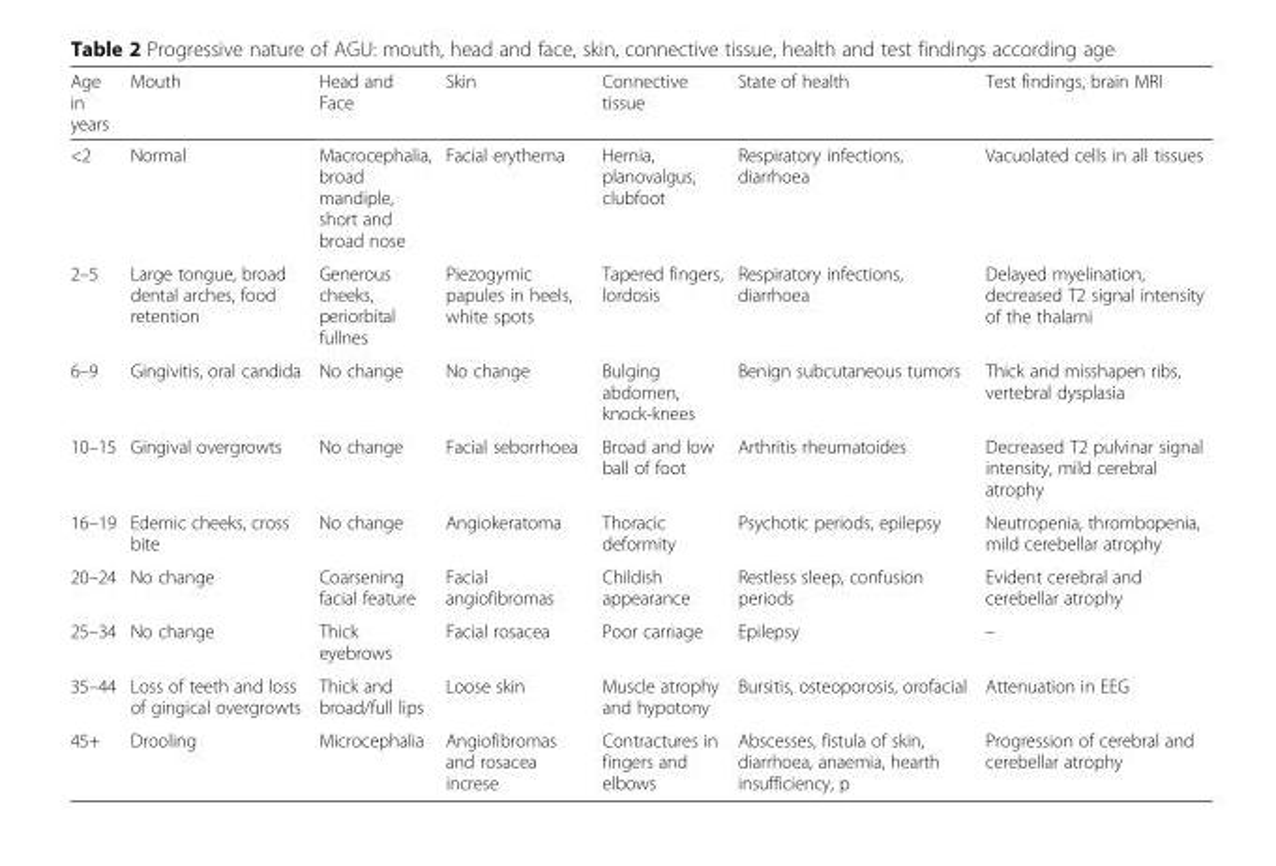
<table><thead><tr><td>Age in years</td><td>Mouth</td><td>Head and Face</td><td>Skin</td><td>Connective tissue</td><td>State of health</td><td>Test findings, brain MRI</td></tr></thead><tbody><tr><td>&lt;2</td><td>Normal</td><td>Macrocephalia, broad mandiple, short and broad nose</td><td>Facial erythema</td><td>Hernia, planovalgus, clubfoot</td><td>Respiratory infections, diarrhoea</td><td>Vacuolated cells in all tissues</td></tr><tr><td>2–5</td><td>Large tongue, broad dental arches, food retention</td><td>Generous cheeks, periorbital fullnes</td><td>Piezogymic papules in heels, white spots</td><td>Tapered fingers, lordosis</td><td>Respiratory infections, diarrhoea</td><td>Delayed myelination, decreased T2 signal intensity of the thalami</td></tr><tr><td>6–9</td><td>Gingivitis, oral candida</td><td>No change</td><td>No change</td><td>Bulging abdomen, knock-knees</td><td>Benign subcutaneous tumors</td><td>Thick and misshapen ribs, vertebral dysplasia</td></tr><tr><td>10–15</td><td>Gingival overgrowts</td><td>No change</td><td>Facial seborrhoea</td><td>Broad and low ball of foot</td><td>Arthritis rheumatoides</td><td>Decreased T2 pulvinar signal intensity, mild cerebral atrophy</td></tr><tr><td>16–19</td><td>Edemic cheeks, cross bite</td><td>No change</td><td>Angiokeratoma</td><td>Thoracic deformity</td><td>Psychotic periods, epilepsy</td><td>Neutropenia, thrombopenia, mild cerebellar atrophy</td></tr><tr><td>20–24</td><td>No change</td><td>Coarsening facial feature</td><td>Facial angiofibromas</td><td>Childish appearance</td><td>Restless sleep, confusion periods</td><td>Evident cerebral and cerebellar atrophy</td></tr><tr><td>25–34</td><td>No change</td><td>Thick eyebrows</td><td>Facial rosacea</td><td>Poor carriage</td><td>Epilepsy</td><td>–</td></tr><tr><td>35–44</td><td>Loss of teeth and loss of gingical overgrowts</td><td>Thick and broad/full lips</td><td>Loose skin</td><td>Muscle atrophy and hypotony</td><td>Bursitis, osteoporosis, orofacial</td><td>Attenuation in EEG</td></tr><tr><td>45+</td><td>Drooling</td><td>Microcephalia</td><td>Angiofibromas and rosacea increse</td><td>Contractures in fingers and elbows</td><td>Abscesses, fistula of skin, diarrhoea, anaemia, hearth insufficiency, p</td><td>Progression of cerebral and cerebellar atrophy</td></tr></tbody></table>